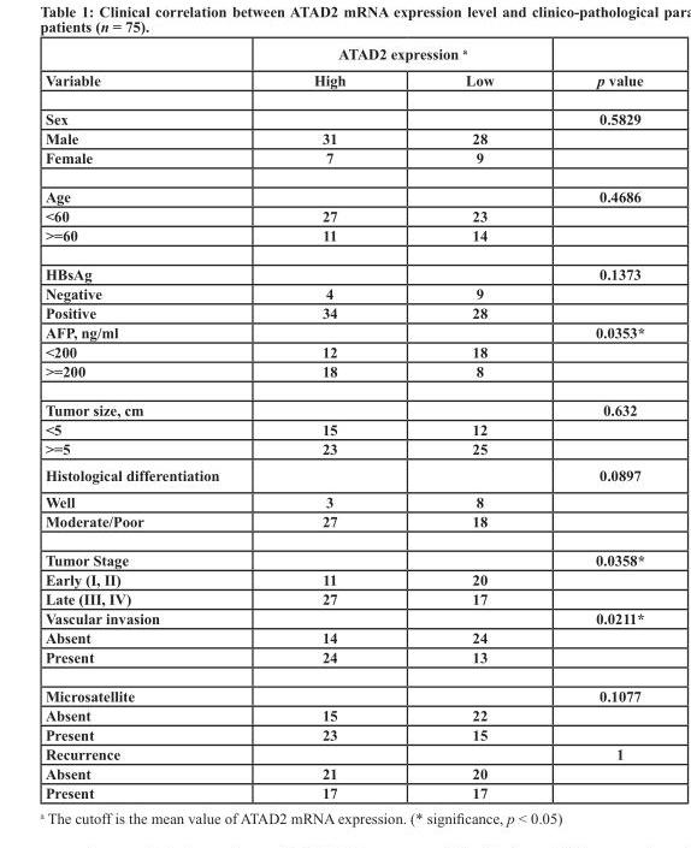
<table><thead><tr><td rowspan="2">Variable</td><td colspan="2">ATAD2 expression <sup>a</sup></td><td rowspan="2">p value</td></tr><tr><td>High</td><td>Low</td></tr></thead><tbody><tr><td>Sex</td><td></td><td></td><td>0.5829</td></tr><tr><td>Male</td><td>31</td><td>28</td><td></td></tr><tr><td>Female</td><td>7</td><td>9</td><td></td></tr><tr><td>Age</td><td></td><td></td><td>0.4686</td></tr><tr><td>&lt;60</td><td>27</td><td>23</td><td></td></tr><tr><td>&gt;=60</td><td>11</td><td>14</td><td></td></tr><tr><td>HBsAg</td><td></td><td></td><td>0.1373</td></tr><tr><td>Negative</td><td>4</td><td>9</td><td></td></tr><tr><td>Positive</td><td>34</td><td>28</td><td></td></tr><tr><td>AFP, ng/ml</td><td></td><td></td><td>0.0353*</td></tr><tr><td>&lt;200</td><td>12</td><td>18</td><td></td></tr><tr><td>&gt;=200</td><td>18</td><td>8</td><td></td></tr><tr><td>Tumor size, cm</td><td></td><td></td><td>0.632</td></tr><tr><td>&lt;5</td><td>15</td><td>12</td><td></td></tr><tr><td>&gt;=5</td><td>23</td><td>25</td><td></td></tr><tr><td>Histological differentiation</td><td></td><td></td><td>0.0897</td></tr><tr><td>Well</td><td>3</td><td>8</td><td></td></tr><tr><td>Moderate/Poor</td><td>27</td><td>18</td><td></td></tr><tr><td>Tumor Stage</td><td></td><td></td><td>0.0358*</td></tr><tr><td>Early (I, II)</td><td>11</td><td>20</td><td></td></tr><tr><td>Late (III, IV)</td><td>27</td><td>17</td><td></td></tr><tr><td>Vascular invasion</td><td></td><td></td><td>0.0211*</td></tr><tr><td>Absent</td><td>14</td><td>24</td><td></td></tr><tr><td>Present</td><td>24</td><td>13</td><td></td></tr><tr><td>Microsatellite</td><td></td><td></td><td>0.1077</td></tr><tr><td>Absent</td><td>15</td><td>22</td><td></td></tr><tr><td>Present</td><td>23</td><td>15</td><td></td></tr><tr><td>Recurrence</td><td></td><td></td><td>1</td></tr><tr><td>Absent</td><td>21</td><td>20</td><td></td></tr><tr><td>Present</td><td>17</td><td>17</td><td></td></tr></tbody></table>